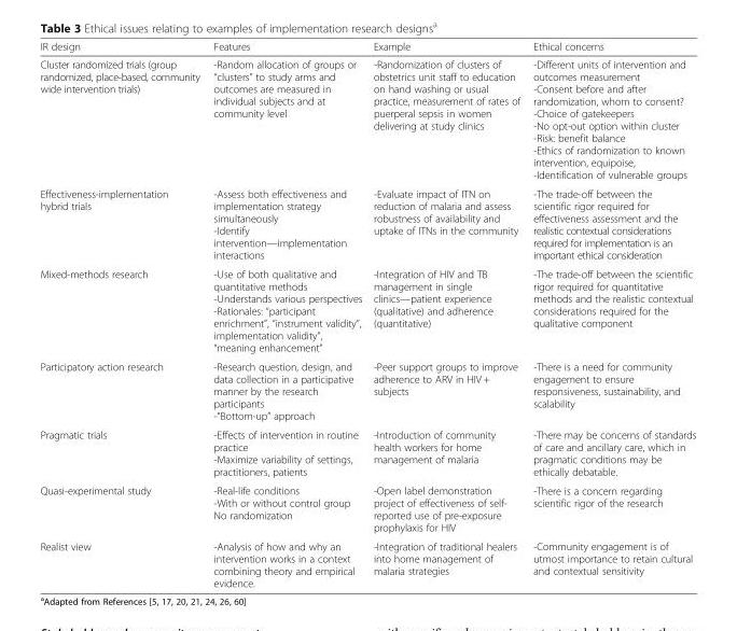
<table><thead><tr><td>IR design</td><td>Features</td><td>Example</td><td>Ethical concerns</td></tr></thead><tbody><tr><td>Cluster randomized trials (group randomized, place-based, community wide intervention trials)</td><td>-Random allocation of groups or “clusters” to study arms and outcomes are measured in individual subjects and at community level</td><td>-Randomization of clusters of obstetrics unit staff to education on hand washing or usual practice, measurement of rates of puerperal sepsis in women delivering at study clinics</td><td>-Different units of intervention and outcomes measurement -Consent before and after randomization, whom to consent? -Choice of gatekeepers -No opt-out option within cluster -Risk: benefit balance -Ethics of randomization to known intervention, equipoise, -Identification of vulnerable groups</td></tr><tr><td>Effectiveness-implementation hybrid trials</td><td>-Assess both effectiveness and implementation strategy simultaneously -Identify intervention—implementation interactions</td><td>-Evaluate impact of ITN on reduction of malaria and assess robustness of availability and uptake of ITNs in the community</td><td>-The trade-off between the scientific rigor required for effectiveness assessment and the realistic contextual considerations required for implementation is an important ethical consideration</td></tr><tr><td>Mixed-methods research</td><td>-Use of both qualitative and quantitative methods -Understands various perspectives -Rationales: “participant enrichment”, “instrument validity”, implementation validity”, “meaning enhancement”</td><td>-Integration of HIV and TB management in single clinics—patient experience (qualitative) and adherence (quantitative)</td><td>-The trade-off between the scientific rigor required for quantitative methods and the realistic contextual considerations required for the qualitative component</td></tr><tr><td>Participatory action research</td><td>-Research question, design, and data collection in a participative manner by the research participants -“Bottom-up” approach</td><td>-Peer support groups to improve adherence to ARV in HIV + subjects</td><td>-There is a need for community engagement to ensure responsiveness, sustainability, and scalability</td></tr><tr><td>Pragmatic trials</td><td>-Effects of intervention in routine practice -Maximize variability of settings, practitioners, patients</td><td>-Introduction of community health workers for home management of malaria</td><td>-There may be concerns of standards of care and ancillary care, which in pragmatic conditions may be ethically debatable.</td></tr><tr><td>Quasi-experimental study</td><td>-Real-life conditions -With or without control group No randomization</td><td>-Open label demonstration project of effectiveness of self- reported use of pre-exposure prophylaxis for HIV</td><td>-There is a concern regarding scientific rigor of the research</td></tr><tr><td>Realist view</td><td>-Analysis of how and why an intervention works in a context combining theory and empirical evidence.</td><td>-Integration of traditional healers into home management of malaria strategies</td><td>-Community engagement is of utmost importance to retain cultural and contextual sensitivity</td></tr></tbody></table>